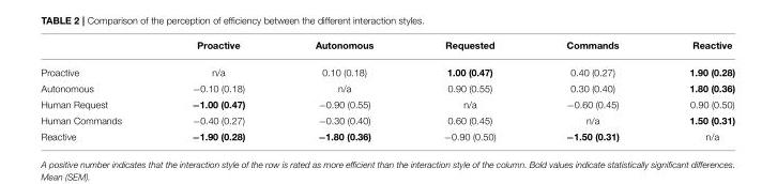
<table><thead><tr><td></td><td>Proactive</td><td>Autonomous</td><td>Requested</td><td>Commands</td><td>Reactive</td></tr></thead><tbody><tr><td>Proactive</td><td>n/a</td><td>0.10 (0.18)</td><td>1.00 (0.47)</td><td>0.40 (0.27)</td><td>1.90 (0.28)</td></tr><tr><td>Autonomous</td><td>−0.10 (0.18)</td><td>n/a</td><td>0.90 (0.55)</td><td>0.30 (0.40)</td><td>1.80 (0.36)</td></tr><tr><td>Human Request</td><td>−1.00 (0.47)</td><td>−0.90 (0.55)</td><td>n/a</td><td>−0.60 (0.45)</td><td>0.90 (0.50)</td></tr><tr><td>Human Commands</td><td>−0.40 (0.27)</td><td>−0.30 (0.40)</td><td>0.60 (0.45)</td><td>n/a</td><td>1.50 (0.31)</td></tr><tr><td>Reactive</td><td>−1.90 (0.28)</td><td>−1.80 (0.36)</td><td>−0.90 (0.50)</td><td>−1.50 (0.31)</td><td>n/a</td></tr></tbody></table>